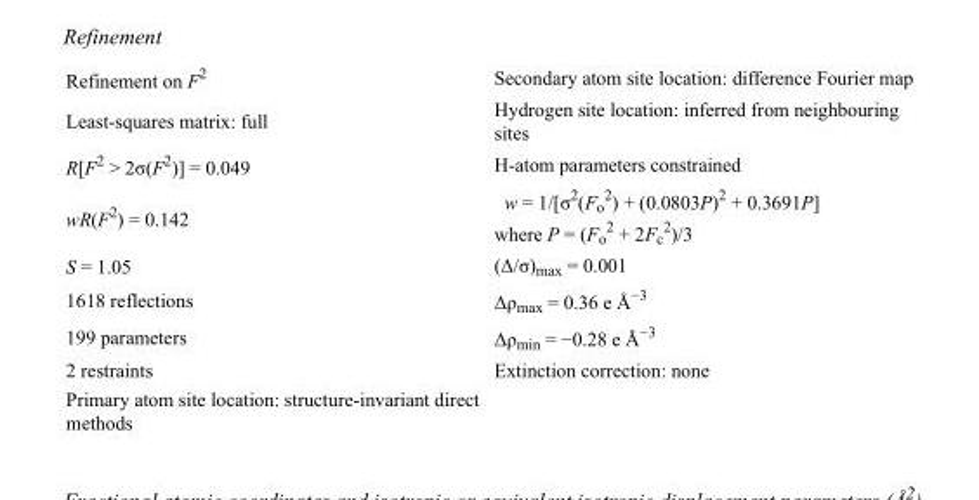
<table><tbody><tr><td>Refinement on F<sup>2</sup></td><td>Secondary atom site location: difference Fourier map</td></tr><tr><td>Least-squares matrix: full</td><td>Hydrogen site location: inferred from neighbouring sites</td></tr><tr><td>R[F<sup>2</sup> &gt; 2σ(F<sup>2</sup>)] = 0.049</td><td>H-atom parameters constrained</td></tr><tr><td>wR(F<sup>2</sup>) = 0.142</td><td>w = 1/[σ<sup>2</sup>(F<sub>o</sub> <sup>2</sup>) + (0.0803P)<sup>2</sup> + 0.3691P] where P = (F<sub>o</sub> <sup>2</sup> + 2F<sub>c</sub> <sup>2</sup>)/3</td></tr><tr><td>S = 1.05</td><td>(Δ/σ)<sub>max</sub> = 0.001</td></tr><tr><td>1618 reflections</td><td>Δρ<sub>max</sub> = 0.36 e Å<sup>−3</sup></td></tr><tr><td>199 parameters</td><td>Δρ<sub>min</sub> = −0.28 e Å<sup>−3</sup></td></tr><tr><td>2 restraints</td><td>Extinction correction: none</td></tr><tr><td>Primary atom site location: structure-invariant direct methods</td><td></td></tr></tbody></table>